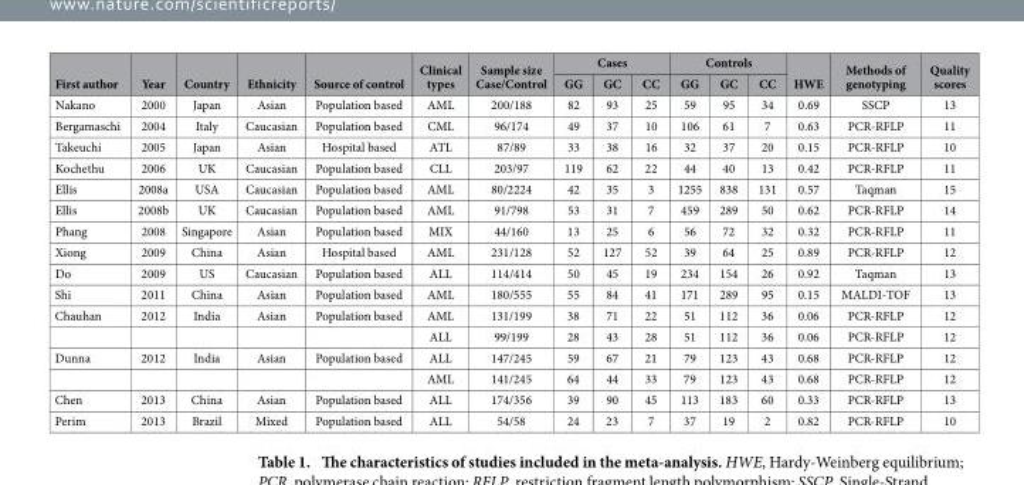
<table><thead><tr><td rowspan="2">First author</td><td rowspan="2">Year</td><td rowspan="2">Country</td><td rowspan="2">Ethnicity</td><td rowspan="2">Source of control</td><td rowspan="2">Clinical types</td><td rowspan="2">Sample size Case/Control</td><td colspan="3">Cases</td><td colspan="3">Controls</td><td rowspan="2">HWE</td><td rowspan="2">Methods of genotyping</td><td rowspan="2">Quality scores</td></tr><tr><td>GG</td><td>GC</td><td>CC</td><td>GG</td><td>GC</td><td>CC</td></tr></thead><tbody><tr><td>Nakano</td><td>2000</td><td>Japan</td><td>Asian</td><td>Population based</td><td>AML</td><td>200/188</td><td>82</td><td>93</td><td>25</td><td>59</td><td>95</td><td>34</td><td>0.69</td><td>SSCP</td><td>13</td></tr><tr><td>Bergamaschi</td><td>2004</td><td>Italy</td><td>Caucasian</td><td>Population based</td><td>CML</td><td>96/174</td><td>49</td><td>37</td><td>10</td><td>106</td><td>61</td><td>7</td><td>0.63</td><td>PCR-RFLP</td><td>11</td></tr><tr><td>Takeuchi</td><td>2005</td><td>Japan</td><td>Asian</td><td>Hospital based</td><td>ATL</td><td>87/89</td><td>33</td><td>38</td><td>16</td><td>32</td><td>37</td><td>20</td><td>0.15</td><td>PCR-RFLP</td><td>10</td></tr><tr><td>Kochethu</td><td>2006</td><td>UK</td><td>Caucasian</td><td>Population based</td><td>CLL</td><td>203/97</td><td>119</td><td>62</td><td>22</td><td>44</td><td>40</td><td>13</td><td>0.42</td><td>PCR-RFLP</td><td>11</td></tr><tr><td>Ellis</td><td>2008a</td><td>USA</td><td>Caucasian</td><td>Population based</td><td>AML</td><td>80/2224</td><td>42</td><td>35</td><td>3</td><td>1255</td><td>838</td><td>131</td><td>0.57</td><td>Taqman</td><td>15</td></tr><tr><td>Ellis</td><td>2008b</td><td>UK</td><td>Caucasian</td><td>Population based</td><td>AML</td><td>91/798</td><td>53</td><td>31</td><td>7</td><td>459</td><td>289</td><td>50</td><td>0.62</td><td>PCR-RFLP</td><td>14</td></tr><tr><td>Phang</td><td>2008</td><td>Singapore</td><td>Asian</td><td>Population based</td><td>MIX</td><td>44/160</td><td>13</td><td>25</td><td>6</td><td>56</td><td>72</td><td>32</td><td>0.32</td><td>PCR-RFLP</td><td>11</td></tr><tr><td>Xiong</td><td>2009</td><td>China</td><td>Asian</td><td>Hospital based</td><td>AML</td><td>231/128</td><td>52</td><td>127</td><td>52</td><td>39</td><td>64</td><td>25</td><td>0.89</td><td>PCR-RFLP</td><td>12</td></tr><tr><td>Do</td><td>2009</td><td>US</td><td>Caucasian</td><td>Population based</td><td>ALL</td><td>114/414</td><td>50</td><td>45</td><td>19</td><td>234</td><td>154</td><td>26</td><td>0.92</td><td>Taqman</td><td>13</td></tr><tr><td>Shi</td><td>2011</td><td>China</td><td>Asian</td><td>Population based</td><td>AML</td><td>180/555</td><td>55</td><td>84</td><td>41</td><td>171</td><td>289</td><td>95</td><td>0.15</td><td>MALDI-TOF</td><td>13</td></tr><tr><td rowspan="2">Chauhan</td><td>2012</td><td>India</td><td>Asian</td><td>Population based</td><td>AML</td><td>131/199</td><td>38</td><td>71</td><td>22</td><td>51</td><td>112</td><td>36</td><td>0.06</td><td>PCR-RFLP</td><td>12</td></tr><tr><td></td><td></td><td></td><td></td><td>ALL</td><td>99/199</td><td>28</td><td>43</td><td>28</td><td>51</td><td>112</td><td>36</td><td>0.06</td><td>PCR-RFLP</td><td>12</td></tr><tr><td rowspan="2">Dunna</td><td>2012</td><td>India</td><td>Asian</td><td>Population based</td><td>ALL</td><td>147/245</td><td>59</td><td>67</td><td>21</td><td>79</td><td>123</td><td>43</td><td>0.68</td><td>PCR-RFLP</td><td>12</td></tr><tr><td></td><td></td><td></td><td></td><td>AML</td><td>141/245</td><td>64</td><td>44</td><td>33</td><td>79</td><td>123</td><td>43</td><td>0.68</td><td>PCR-RFLP</td><td>12</td></tr><tr><td>Chen</td><td>2013</td><td>China</td><td>Asian</td><td>Population based</td><td>ALL</td><td>174/356</td><td>39</td><td>90</td><td>45</td><td>113</td><td>183</td><td>60</td><td>0.33</td><td>PCR-RFLP</td><td>13</td></tr><tr><td>Perim</td><td>2013</td><td>Brazil</td><td>Mixed</td><td>Population based</td><td>ALL</td><td>54/58</td><td>24</td><td>23</td><td>7</td><td>37</td><td>19</td><td>2</td><td>0.82</td><td>PCR-RFLP</td><td>10</td></tr></tbody></table>